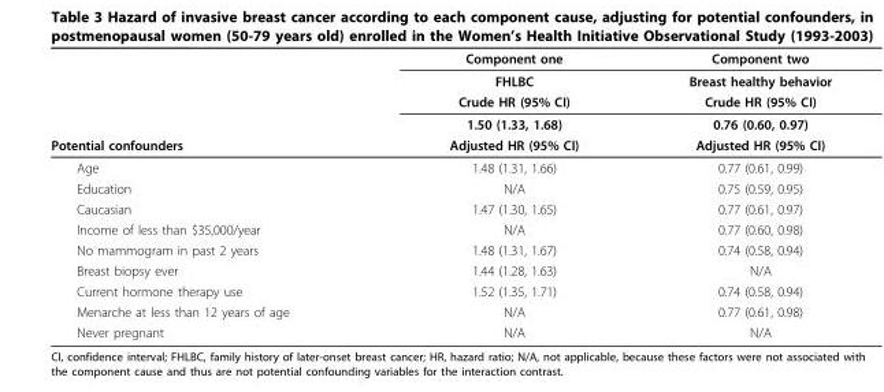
<table><thead><tr><td rowspan="5">Potential confounders</td><td rowspan="5">Component one FHLBC Crude HR (95% CI) 1.50 (1.33, 1.68) Adjusted HR (95% CI)</td><td rowspan="5">Component two Breast healthy behavior Crude HR (95% CI) 0.76 (0.60, 0.97) Adjusted HR (95% CI)</td></tr><tr></tr><tr></tr><tr></tr><tr></tr></thead><tbody><tr><td>Age</td><td>1.48 (1.31, 1.66)</td><td>0.77 (0.61, 0.99)</td></tr><tr><td>Education</td><td>N/A</td><td>0.75 (0.59, 0.95)</td></tr><tr><td>Caucasian</td><td>1.47 (1.30, 1.65)</td><td>0.77 (0.61, 0.97)</td></tr><tr><td>Income of less than $35,000/year</td><td>N/A</td><td>0.77 (0.60, 0.98)</td></tr><tr><td>No mammogram in past 2 years</td><td>1.48 (1.31, 1.67)</td><td>0.74 (0.58, 0.94)</td></tr><tr><td>Breast biopsy ever</td><td>1.44 (1.28, 1.63)</td><td>N/A</td></tr><tr><td>Current hormone therapy use</td><td>1.52 (1.35, 1.71)</td><td>0.74 (0.58, 0.94)</td></tr><tr><td>Menarche at less than 12 years of age</td><td>N/A</td><td>0.77 (0.61, 0.98)</td></tr><tr><td>Never pregnant</td><td>N/A</td><td>N/A</td></tr></tbody></table>